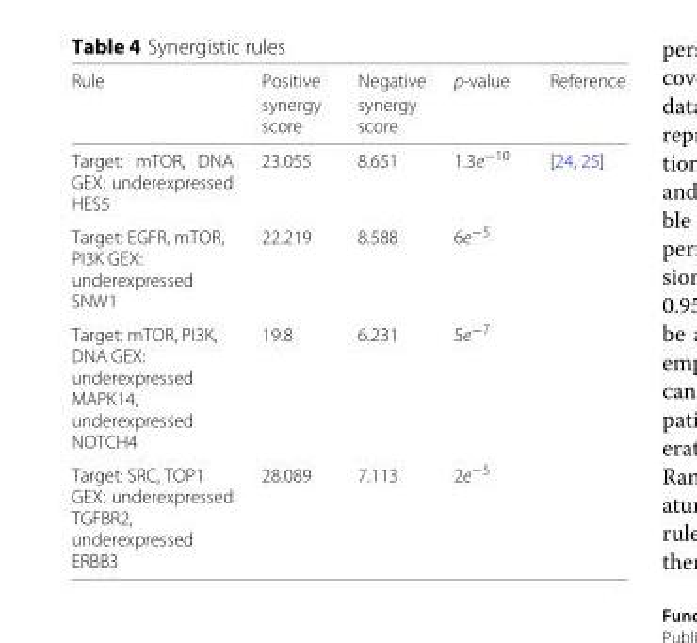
<table><thead><tr><td rowspan="2">Rule</td><td rowspan="2">Positive synergy score</td><td rowspan="2">Negative synergy score</td><td rowspan="2">p-value</td><td rowspan="2">Reference</td></tr><tr></tr></thead><tbody><tr><td>Target: mTOR, DNA GEX: underexpressed HES5</td><td>23.055</td><td>8.651</td><td>1.3e<sup>−10</sup></td><td>[24, 25]</td></tr><tr><td>Target: EGFR, mTOR, PI3K GEX: underexpressed SNW1</td><td>22.219</td><td>8.588</td><td>6e<sup>−5</sup></td><td></td></tr><tr><td>Target: mTOR, PI3K, DNA GEX: underexpressed MAPK14, underexpressed NOTCH4</td><td>19.8</td><td>6.231</td><td>5e<sup>−7</sup></td><td></td></tr><tr><td>Target: SRC, TOP1 GEX: underexpressed TGFBR2, underexpressed ERBB3</td><td>28.089</td><td>7.113</td><td>2e<sup>−5</sup></td><td></td></tr></tbody></table>